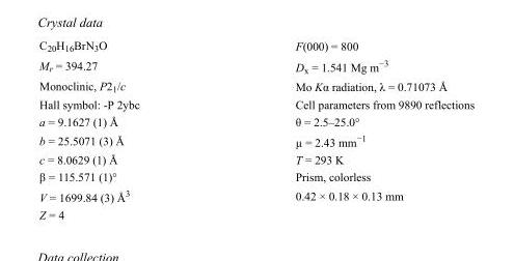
<table><tbody><tr><td>C<sub>20</sub>H<sub>16</sub>BrN<sub>3</sub>O</td><td>F(000) = 800</td></tr><tr><td>M<sub>r</sub> = 394.27</td><td>D<sub>x</sub> = 1.541 Mg m<sup>−3</sup></td></tr><tr><td>Monoclinic, P2<sub>1</sub>/c</td><td>Mo Kα radiation, λ = 0.71073 Å</td></tr><tr><td>Hall symbol: -P 2ybc</td><td>Cell parameters from 9890 reflections</td></tr><tr><td>a = 9.1627 (1) Å</td><td>θ = 2.5–25.0°</td></tr><tr><td>b = 25.5071 (3) Å</td><td>µ = 2.43 mm<sup>−1</sup></td></tr><tr><td>c = 8.0629 (1) Å</td><td>T = 293 K</td></tr><tr><td>β = 115.571 (1)°</td><td>Prism, colorless</td></tr><tr><td>V = 1699.84 (3) Å<sup>3</sup></td><td>0.42 × 0.18 × 0.13 mm</td></tr><tr><td>Z = 4</td><td></td></tr></tbody></table>